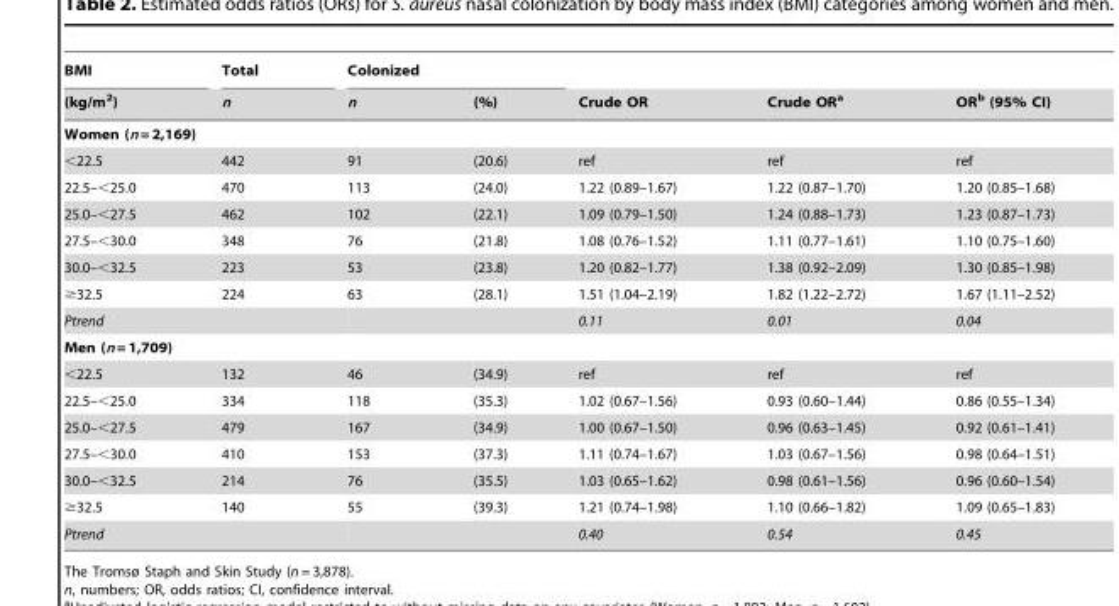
<table><thead><tr><td rowspan="2">BMI (kg/m<sup>2</sup>)</td><td rowspan="2">Total n</td><td colspan="2">Colonized</td><td rowspan="2">Crude OR</td><td rowspan="2">Crude OR<sup>a</sup></td><td rowspan="2">OR<sup>b</sup> (95% CI)</td></tr><tr><td>n</td><td>(%)</td></tr></thead><tbody><tr><td colspan="7">Women (n = 2,169)</td></tr><tr><td>&lt;22.5</td><td>442</td><td>91</td><td>(20.6)</td><td>ref</td><td>ref</td><td>ref</td></tr><tr><td>22.5–&lt;25.0</td><td>470</td><td>113</td><td>(24.0)</td><td>1.22 (0.89–1.67)</td><td>1.22 (0.87–1.70)</td><td>1.20 (0.85–1.68)</td></tr><tr><td>25.0–&lt;27.5</td><td>462</td><td>102</td><td>(22.1)</td><td>1.09 (0.79–1.50)</td><td>1.24 (0.88–1.73)</td><td>1.23 (0.87–1.73)</td></tr><tr><td>27.5–&lt;30.0</td><td>348</td><td>76</td><td>(21.8)</td><td>1.08 (0.76–1.52)</td><td>1.11 (0.77–1.61)</td><td>1.10 (0.75–1.60)</td></tr><tr><td>30.0–&lt;32.5</td><td>223</td><td>53</td><td>(23.8)</td><td>1.20 (0.82–1.77)</td><td>1.38 (0.92–2.09)</td><td>1.30 (0.85–1.98)</td></tr><tr><td>≥32.5</td><td>224</td><td>63</td><td>(28.1)</td><td>1.51 (1.04–2.19)</td><td>1.82 (1.22–2.72)</td><td>1.67 (1.11–2.52)</td></tr><tr><td>Ptrend</td><td></td><td colspan="2"></td><td>0.11</td><td>0.01</td><td>0.04</td></tr><tr><td colspan="7">Men (n = 1,709)</td></tr><tr><td>&lt;22.5</td><td>132</td><td>46</td><td>(34.9)</td><td>ref</td><td>ref</td><td>ref</td></tr><tr><td>22.5–&lt;25.0</td><td>334</td><td>118</td><td>(35.3)</td><td>1.02 (0.67–1.56)</td><td>0.93 (0.60–1.44)</td><td>0.86 (0.55–1.34)</td></tr><tr><td>25.0–&lt;27.5</td><td>479</td><td>167</td><td>(34.9)</td><td>1.00 (0.67–1.50)</td><td>0.96 (0.63–1.45)</td><td>0.92 (0.61–1.41)</td></tr><tr><td>27.5–&lt;30.0</td><td>410</td><td>153</td><td>(37.3)</td><td>1.11 (0.74–1.67)</td><td>1.03 (0.67–1.56)</td><td>0.98 (0.64–1.51)</td></tr><tr><td>30.0–&lt;32.5</td><td>214</td><td>76</td><td>(35.5)</td><td>1.03 (0.65–1.62)</td><td>0.98 (0.61–1.56)</td><td>0.96 (0.60–1.54)</td></tr><tr><td>≥32.5</td><td>140</td><td>55</td><td>(39.3)</td><td>1.21 (0.74–1.98)</td><td>1.10 (0.66–1.82)</td><td>1.09 (0.65–1.83)</td></tr><tr><td>Ptrend</td><td></td><td colspan="2"></td><td>0.40</td><td>0.54</td><td>0.45</td></tr></tbody></table>